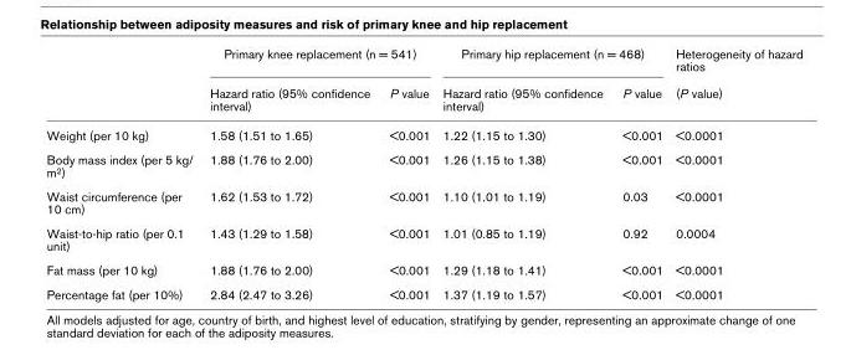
<table><thead><tr><td rowspan="2"></td><td colspan="2">Primary knee replacement (n = 541)</td><td colspan="2">Primary hip replacement (n = 468)</td><td rowspan="2">Heterogeneity of hazard ratios (P value)</td></tr><tr><td>Hazard ratio (95% confidence interval)</td><td>P value</td><td>Hazard ratio (95% confidence interval)</td><td>P value</td></tr></thead><tbody><tr><td>Weight (per 10 kg)</td><td>1.58 (1.51 to 1.65)</td><td>&lt;0.001</td><td>1.22 (1.15 to 1.30)</td><td>&lt;0.001</td><td>&lt;0.0001</td></tr><tr><td>Body mass index (per 5 kg/ m<sup>2</sup>)</td><td>1.88 (1.76 to 2.00)</td><td>&lt;0.001</td><td>1.26 (1.15 to 1.38)</td><td>&lt;0.001</td><td>&lt;0.0001</td></tr><tr><td>Waist circumference (per 10 cm)</td><td>1.62 (1.53 to 1.72)</td><td>&lt;0.001</td><td>1.10 (1.01 to 1.19)</td><td>0.03</td><td>&lt;0.0001</td></tr><tr><td>Waist-to-hip ratio (per 0.1 unit)</td><td>1.43 (1.29 to 1.58)</td><td>&lt;0.001</td><td>1.01 (0.85 to 1.19)</td><td>0.92</td><td>0.0004</td></tr><tr><td>Fat mass (per 10 kg)</td><td>1.88 (1.76 to 2.00)</td><td>&lt;0.001</td><td>1.29 (1.18 to 1.41)</td><td>&lt;0.001</td><td>&lt;0.0001</td></tr><tr><td>Percentage fat (per 10%)</td><td>2.84 (2.47 to 3.26)</td><td>&lt;0.001</td><td>1.37 (1.19 to 1.57)</td><td>&lt;0.001</td><td>&lt;0.0001</td></tr></tbody></table>